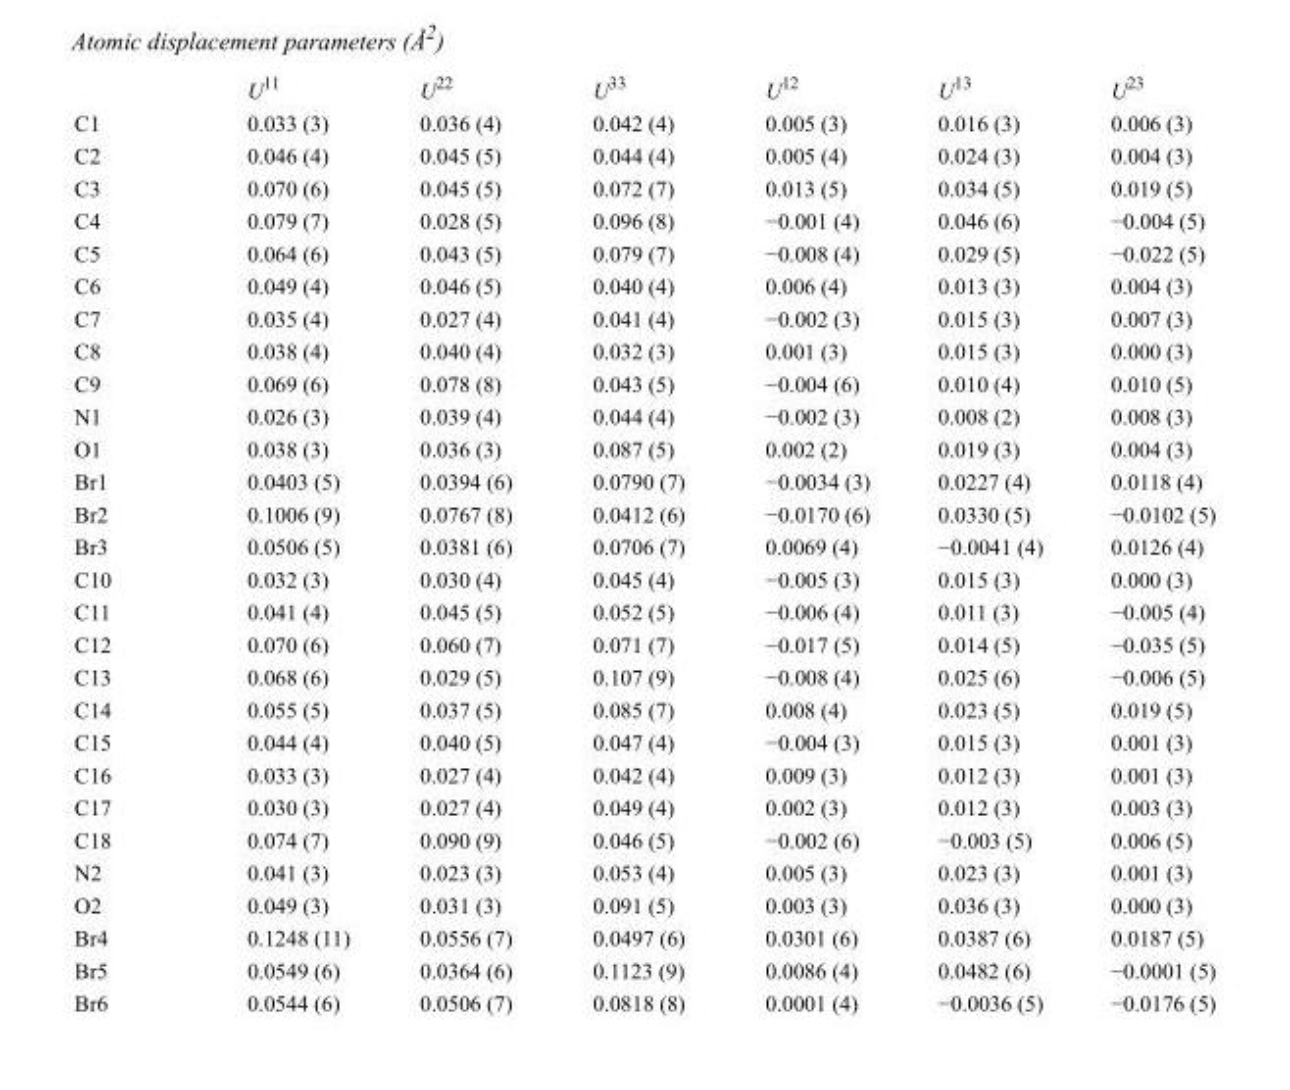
<table><thead><tr><td></td><td>U<sup>11</sup></td><td>U<sup>22</sup></td><td>U<sup>33</sup></td><td>U<sup>12</sup></td><td>U<sup>13</sup></td><td>U<sup>23</sup></td></tr></thead><tbody><tr><td>C1</td><td>0.033 (3)</td><td>0.036 (4)</td><td>0.042 (4)</td><td>0.005 (3)</td><td>0.016 (3)</td><td>0.006 (3)</td></tr><tr><td>C2</td><td>0.046 (4)</td><td>0.045 (5)</td><td>0.044 (4)</td><td>0.005 (4)</td><td>0.024 (3)</td><td>0.004 (3)</td></tr><tr><td>C3</td><td>0.070 (6)</td><td>0.045 (5)</td><td>0.072 (7)</td><td>0.013 (5)</td><td>0.034 (5)</td><td>0.019 (5)</td></tr><tr><td>C4</td><td>0.079 (7)</td><td>0.028 (5)</td><td>0.096 (8)</td><td>−0.001 (4)</td><td>0.046 (6)</td><td>−0.004 (5)</td></tr><tr><td>C5</td><td>0.064 (6)</td><td>0.043 (5)</td><td>0.079 (7)</td><td>−0.008 (4)</td><td>0.029 (5)</td><td>−0.022 (5)</td></tr><tr><td>C6</td><td>0.049 (4)</td><td>0.046 (5)</td><td>0.040 (4)</td><td>0.006 (4)</td><td>0.013 (3)</td><td>0.004 (3)</td></tr><tr><td>C7</td><td>0.035 (4)</td><td>0.027 (4)</td><td>0.041 (4)</td><td>−0.002 (3)</td><td>0.015 (3)</td><td>0.007 (3)</td></tr><tr><td>C8</td><td>0.038 (4)</td><td>0.040 (4)</td><td>0.032 (3)</td><td>0.001 (3)</td><td>0.015 (3)</td><td>0.000 (3)</td></tr><tr><td>C9</td><td>0.069 (6)</td><td>0.078 (8)</td><td>0.043 (5)</td><td>−0.004 (6)</td><td>0.010 (4)</td><td>0.010 (5)</td></tr><tr><td>N1</td><td>0.026 (3)</td><td>0.039 (4)</td><td>0.044 (4)</td><td>−0.002 (3)</td><td>0.008 (2)</td><td>0.008 (3)</td></tr><tr><td>O1</td><td>0.038 (3)</td><td>0.036 (3)</td><td>0.087 (5)</td><td>0.002 (2)</td><td>0.019 (3)</td><td>0.004 (3)</td></tr><tr><td>Br1</td><td>0.0403 (5)</td><td>0.0394 (6)</td><td>0.0790 (7)</td><td>−0.0034 (3)</td><td>0.0227 (4)</td><td>0.0118 (4)</td></tr><tr><td>Br2</td><td>0.1006 (9)</td><td>0.0767 (8)</td><td>0.0412 (6)</td><td>−0.0170 (6)</td><td>0.0330 (5)</td><td>−0.0102 (5)</td></tr><tr><td>Br3</td><td>0.0506 (5)</td><td>0.0381 (6)</td><td>0.0706 (7)</td><td>0.0069 (4)</td><td>−0.0041 (4)</td><td>0.0126 (4)</td></tr><tr><td>C10</td><td>0.032 (3)</td><td>0.030 (4)</td><td>0.045 (4)</td><td>−0.005 (3)</td><td>0.015 (3)</td><td>0.000 (3)</td></tr><tr><td>C11</td><td>0.041 (4)</td><td>0.045 (5)</td><td>0.052 (5)</td><td>−0.006 (4)</td><td>0.011 (3)</td><td>−0.005 (4)</td></tr><tr><td>C12</td><td>0.070 (6)</td><td>0.060 (7)</td><td>0.071 (7)</td><td>−0.017 (5)</td><td>0.014 (5)</td><td>−0.035 (5)</td></tr><tr><td>C13</td><td>0.068 (6)</td><td>0.029 (5)</td><td>0.107 (9)</td><td>−0.008 (4)</td><td>0.025 (6)</td><td>−0.006 (5)</td></tr><tr><td>C14</td><td>0.055 (5)</td><td>0.037 (5)</td><td>0.085 (7)</td><td>0.008 (4)</td><td>0.023 (5)</td><td>0.019 (5)</td></tr><tr><td>C15</td><td>0.044 (4)</td><td>0.040 (5)</td><td>0.047 (4)</td><td>−0.004 (3)</td><td>0.015 (3)</td><td>0.001 (3)</td></tr><tr><td>C16</td><td>0.033 (3)</td><td>0.027 (4)</td><td>0.042 (4)</td><td>0.009 (3)</td><td>0.012 (3)</td><td>0.001 (3)</td></tr><tr><td>C17</td><td>0.030 (3)</td><td>0.027 (4)</td><td>0.049 (4)</td><td>0.002 (3)</td><td>0.012 (3)</td><td>0.003 (3)</td></tr><tr><td>C18</td><td>0.074 (7)</td><td>0.090 (9)</td><td>0.046 (5)</td><td>−0.002 (6)</td><td>−0.003 (5)</td><td>0.006 (5)</td></tr><tr><td>N2</td><td>0.041 (3)</td><td>0.023 (3)</td><td>0.053 (4)</td><td>0.005 (3)</td><td>0.023 (3)</td><td>0.001 (3)</td></tr><tr><td>O2</td><td>0.049 (3)</td><td>0.031 (3)</td><td>0.091 (5)</td><td>0.003 (3)</td><td>0.036 (3)</td><td>0.000 (3)</td></tr><tr><td>Br4</td><td>0.1248 (11)</td><td>0.0556 (7)</td><td>0.0497 (6)</td><td>0.0301 (6)</td><td>0.0387 (6)</td><td>0.0187 (5)</td></tr><tr><td>Br5</td><td>0.0549 (6)</td><td>0.0364 (6)</td><td>0.1123 (9)</td><td>0.0086 (4)</td><td>0.0482 (6)</td><td>−0.0001 (5)</td></tr><tr><td>Br6</td><td>0.0544 (6)</td><td>0.0506 (7)</td><td>0.0818 (8)</td><td>0.0001 (4)</td><td>−0.0036 (5)</td><td>−0.0176 (5)</td></tr></tbody></table>